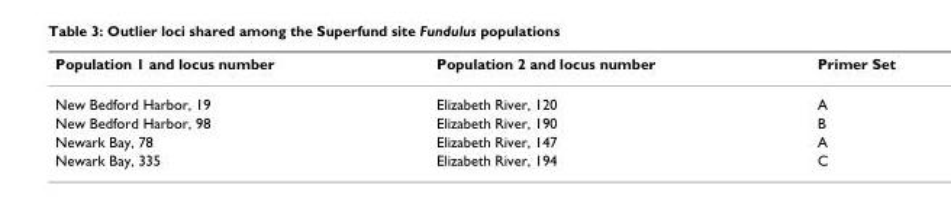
<table><thead><tr><td>Population 1 and locus number</td><td>Population 2 and locus number</td><td>Primer Set</td></tr></thead><tbody><tr><td>New Bedford Harbor, 19</td><td>Elizabeth River, 120</td><td>A</td></tr><tr><td>New Bedford Harbor, 98</td><td>Elizabeth River, 190</td><td>B</td></tr><tr><td>Newark Bay, 78</td><td>Elizabeth River, 147</td><td>A</td></tr><tr><td>Newark Bay, 335</td><td>Elizabeth River, 194</td><td>C</td></tr></tbody></table>